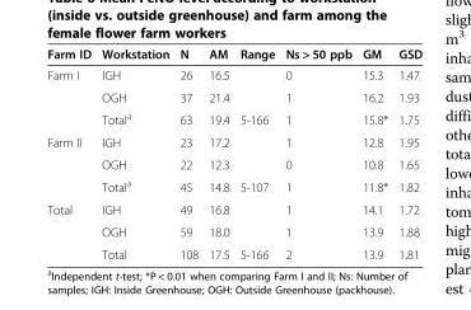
<table><thead><tr><td>Farm ID</td><td>Workstation</td><td>N</td><td>AM</td><td>Range</td><td>Ns &gt; 50 ppb</td><td>GM</td><td>GSD</td></tr></thead><tbody><tr><td rowspan="3">Farm I</td><td>IGH</td><td>26</td><td>16.5</td><td></td><td>0</td><td>15.3</td><td>1.47</td></tr><tr><td>OGH</td><td>37</td><td>21.4</td><td></td><td>1</td><td>16.2</td><td>1.93</td></tr><tr><td>Total<sup>a</sup></td><td>63</td><td>19.4</td><td>5-166</td><td>1</td><td>15.8*</td><td>1.75</td></tr><tr><td rowspan="3">Farm II</td><td>IGH</td><td>23</td><td>17.2</td><td></td><td>1</td><td>12.8</td><td>1.95</td></tr><tr><td>OGH</td><td>22</td><td>12.3</td><td></td><td>0</td><td>10.8</td><td>1.65</td></tr><tr><td>Total<sup>a</sup></td><td>45</td><td>14.8</td><td>5-107</td><td>1</td><td>11.8*</td><td>1.82</td></tr><tr><td rowspan="3">Total</td><td>IGH</td><td>49</td><td>16.8</td><td></td><td>1</td><td>14.1</td><td>1.72</td></tr><tr><td>OGH</td><td>59</td><td>18.0</td><td></td><td>1</td><td>13.9</td><td>1.88</td></tr><tr><td>Total</td><td>108</td><td>17.5</td><td>5-166</td><td>2</td><td>13.9</td><td>1.81</td></tr></tbody></table>